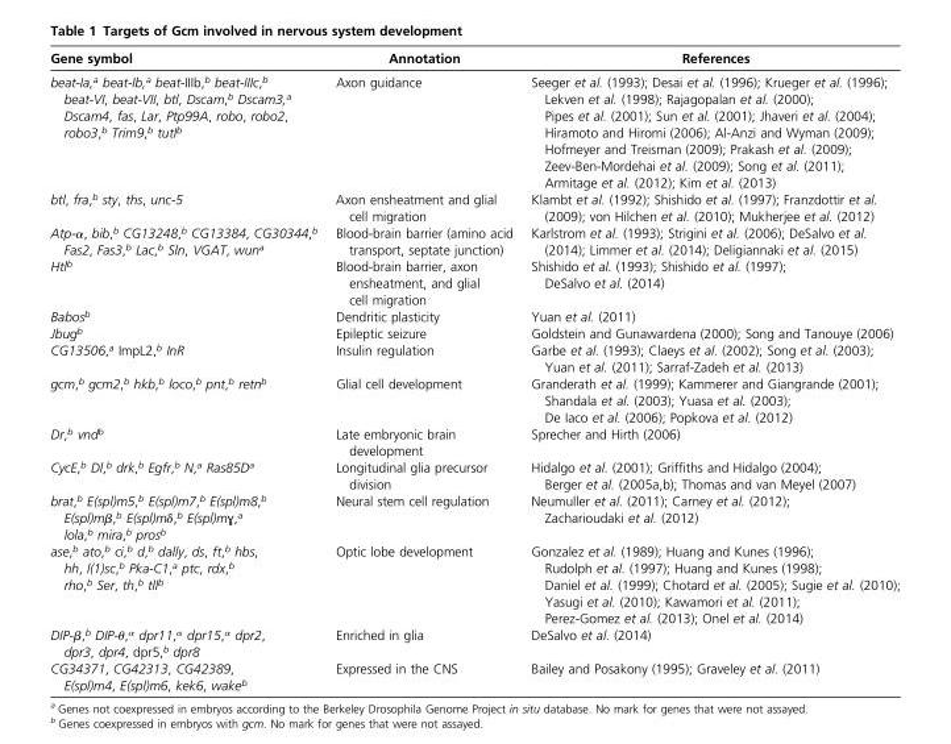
<table><thead><tr><td>Gene symbol</td><td>Annotation</td><td>References</td></tr></thead><tbody><tr><td>beat-Ia,<sup>a</sup> beat-Ib,<sup>a</sup> beat-IIIb,<sup>b</sup> beat-IIIc,<sup>b</sup> beat-VI, beat-VII, btl, Dscam,<sup>b</sup> Dscam3,<sup>a</sup> Dscam4, fas, Lar, Ptp99A, robo, robo2, robo3,<sup>b</sup> Trim9,<sup>b</sup> tutl<sup>b</sup></td><td>Axon guidance</td><td>Seeger et al. (1993); Desai et al. (1996); Krueger et al. (1996); Lekven et al. (1998); Rajagopalan et al. (2000); Pipes et al. (2001); Sun et al. (2001); Jhaveri et al. (2004); Hiramoto and Hiromi (2006); Al-Anzi and Wyman (2009); Hofmeyer and Treisman (2009); Prakash et al. (2009); Zeev-Ben-Mordehai et al. (2009); Song et al. (2011); Armitage et al. (2012); Kim et al. (2013)</td></tr><tr><td>btl, fra,<sup>b</sup> sty, ths, unc-5</td><td>Axon ensheatment and glial cell migration</td><td>Klambt et al. (1992); Shishido et al. (1997); Franzdottir et al. (2009); von Hilchen et al. (2010); Mukherjee et al. (2012)</td></tr><tr><td>Atp-α, bib,<sup>b</sup> CG13248,<sup>b</sup> CG13384, CG30344,<sup>b</sup> Fas2, Fas3,<sup>b</sup> Lac,<sup>b</sup> Sln, VGAT, wun<sup>a</sup></td><td>Blood-brain barrier (amino acid transport, septate junction)</td><td>Karlstrom et al. (1993); Strigini et al. (2006); DeSalvo et al. (2014); Limmer et al. (2014); Deligiannaki et al. (2015)</td></tr><tr><td>Htl<sup>b</sup></td><td>Blood-brain barrier, axon ensheatment, and glial cell migration</td><td>Shishido et al. (1993); Shishido et al. (1997); DeSalvo et al. (2014)</td></tr><tr><td>Babos<sup>b</sup></td><td>Dendritic plasticity</td><td>Yuan et al. (2011)</td></tr><tr><td>Jbug<sup>b</sup></td><td>Epileptic seizure</td><td>Goldstein and Gunawardena (2000); Song and Tanouye (2006)</td></tr><tr><td>CG13506,<sup>a</sup> ImpL2,<sup>b</sup> InR</td><td>Insulin regulation</td><td>Garbe et al. (1993); Claeys et al. (2002); Song et al. (2003); Yuan et al. (2011); Sarraf-Zadeh et al. (2013)</td></tr><tr><td>gcm,<sup>b</sup> gcm2,<sup>b</sup> hkb,<sup>b</sup> loco,<sup>b</sup> pnt,<sup>b</sup> retn<sup>b</sup></td><td>Glial cell development</td><td>Granderath et al. (1999); Kammerer and Giangrande (2001); Shandala et al. (2003); Yuasa et al. (2003); De Iaco et al. (2006); Popkova et al. (2012)</td></tr><tr><td>Dr,<sup>b</sup> vnd<sup>b</sup></td><td>Late embryonic brain development</td><td>Sprecher and Hirth (2006)</td></tr><tr><td>CycE,<sup>b</sup> Dl,<sup>b</sup> drk,<sup>b</sup> Egfr,<sup>b</sup> N,<sup>a</sup> Ras85D<sup>a</sup></td><td>Longitudinal glia precursor division</td><td>Hidalgo et al. (2001); Griffiths and Hidalgo (2004); Berger et al. (2005a,b); Thomas and van Meyel (2007)</td></tr><tr><td>brat,<sup>b</sup> E(spl)m5,<sup>b</sup> E(spl)m7,<sup>b</sup> E(spl)m8,<sup>b</sup> E(spl)mβ,<sup>b</sup> E(spl)mδ,<sup>b</sup> E(spl)mɣ,<sup>a</sup> lola,<sup>b</sup> mira,<sup>b</sup> pros<sup>b</sup></td><td>Neural stem cell regulation</td><td>Neumuller et al. (2011); Carney et al. (2012); Zacharioudaki et al. (2012)</td></tr><tr><td>ase,<sup>b</sup> ato,<sup>b</sup> ci,<sup>b</sup> d,<sup>b</sup> dally, ds, ft,<sup>b</sup> hbs, hh, l(1)sc,<sup>b</sup> Pka-C1,<sup>a</sup> ptc, rdx,<sup>b</sup> rho,<sup>b</sup> Ser, th,<sup>b</sup> tll<sup>b</sup></td><td>Optic lobe development</td><td>Gonzalez et al. (1989); Huang and Kunes (1996); Rudolph et al. (1997); Huang and Kunes (1998); Daniel et al. (1999); Chotard et al. (2005); Sugie et al. (2010); Yasugi et al. (2010); Kawamori et al. (2011); Perez-Gomez et al. (2013); Onel et al. (2014)</td></tr><tr><td>DIP-β,<sup>b</sup> DIP-θ,<sup>α</sup> dpr11,<sup>α</sup> dpr15,<sup>α</sup> dpr2, dpr3, dpr4, dpr5,<sup>b</sup> dpr8</td><td>Enriched in glia</td><td>DeSalvo et al. (2014)</td></tr><tr><td>CG34371, CG42313, CG42389, E(spl)m4, E(spl)m6, kek6, wake<sup>b</sup></td><td>Expressed in the CNS</td><td>Bailey and Posakony (1995); Graveley et al. (2011)</td></tr></tbody></table>